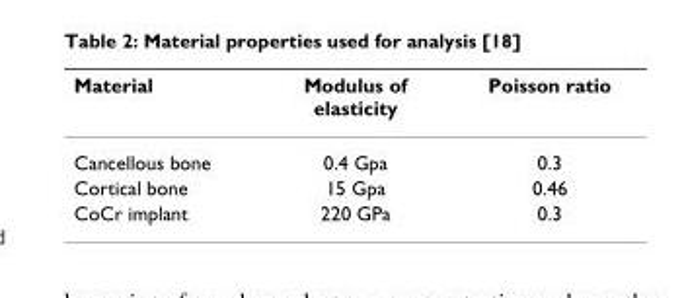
<table><thead><tr><td>Material</td><td>Modulus of elasticity</td><td>Poisson ratio</td></tr></thead><tbody><tr><td>Cancellous bone</td><td>0.4 Gpa</td><td>0.3</td></tr><tr><td>Cortical bone</td><td>15 Gpa</td><td>0.46</td></tr><tr><td>CoCr implant</td><td>220 GPa</td><td>0.3</td></tr></tbody></table>